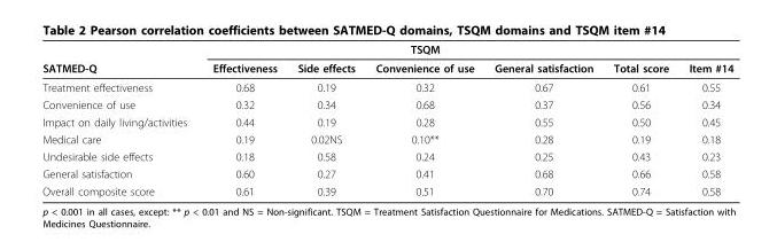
<table><thead><tr><td rowspan="2">SATMED-Q</td><td rowspan="2">Effectiveness</td><td rowspan="2">Side effects</td><td rowspan="2">TSQM Convenience of use</td><td rowspan="2">General satisfaction</td><td rowspan="2">Total score</td><td rowspan="2">Item #14</td></tr><tr></tr></thead><tbody><tr><td>Treatment effectiveness</td><td>0.68</td><td>0.19</td><td>0.32</td><td>0.67</td><td>0.61</td><td>0.55</td></tr><tr><td>Convenience of use</td><td>0.32</td><td>0.34</td><td>0.68</td><td>0.37</td><td>0.56</td><td>0.34</td></tr><tr><td>Impact on daily living/activities</td><td>0.44</td><td>0.19</td><td>0.28</td><td>0.55</td><td>0.50</td><td>0.45</td></tr><tr><td>Medical care</td><td>0.19</td><td>0.02NS</td><td>0.10**</td><td>0.28</td><td>0.19</td><td>0.18</td></tr><tr><td>Undesirable side effects</td><td>0.18</td><td>0.58</td><td>0.24</td><td>0.25</td><td>0.43</td><td>0.23</td></tr><tr><td>General satisfaction</td><td>0.60</td><td>0.27</td><td>0.41</td><td>0.68</td><td>0.66</td><td>0.58</td></tr><tr><td>Overall composite score</td><td>0.61</td><td>0.39</td><td>0.51</td><td>0.70</td><td>0.74</td><td>0.58</td></tr></tbody></table>